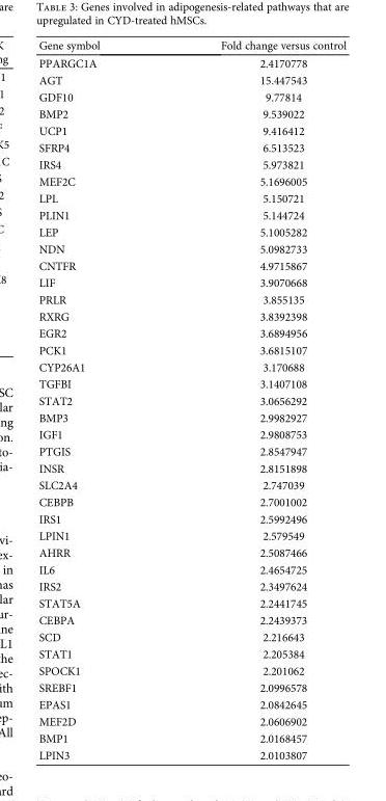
<table><thead><tr><td>Gene symbol</td><td>Fold change versus control</td></tr></thead><tbody><tr><td>PPARGC1A</td><td>2.4170778</td></tr><tr><td>AGT</td><td>15.447543</td></tr><tr><td>GDF10</td><td>9.77814</td></tr><tr><td>BMP2</td><td>9.539022</td></tr><tr><td>UCP1</td><td>9.416412</td></tr><tr><td>SFRP4</td><td>6.513523</td></tr><tr><td>IRS4</td><td>5.973821</td></tr><tr><td>MEF2C</td><td>5.1696005</td></tr><tr><td>LPL</td><td>5.150721</td></tr><tr><td>PLIN1</td><td>5.144724</td></tr><tr><td>LEP</td><td>5.1005282</td></tr><tr><td>NDN</td><td>5.0982733</td></tr><tr><td>CNTFR</td><td>4.9715867</td></tr><tr><td>LIF</td><td>3.9070668</td></tr><tr><td>PRLR</td><td>3.855135</td></tr><tr><td>RXRG</td><td>3.8392398</td></tr><tr><td>EGR2</td><td>3.6894956</td></tr><tr><td>PCK1</td><td>3.6815107</td></tr><tr><td>CYP26A1</td><td>3.170688</td></tr><tr><td>TGFBI</td><td>3.1407108</td></tr><tr><td>STAT2</td><td>3.0656292</td></tr><tr><td>BMP3</td><td>2.9982927</td></tr><tr><td>IGF1</td><td>2.9808753</td></tr><tr><td>PTGIS</td><td>2.8547947</td></tr><tr><td>INSR</td><td>2.8151898</td></tr><tr><td>SLC2A4</td><td>2.747039</td></tr><tr><td>CEBPB</td><td>2.7001002</td></tr><tr><td>IRS1</td><td>2.5992496</td></tr><tr><td>LPIN1</td><td>2.579549</td></tr><tr><td>AHRR</td><td>2.5087466</td></tr><tr><td>IL6</td><td>2.4654725</td></tr><tr><td>IRS2</td><td>2.3497624</td></tr><tr><td>STAT5A</td><td>2.2441745</td></tr><tr><td>CEBPA</td><td>2.2439373</td></tr><tr><td>SCD</td><td>2.216643</td></tr><tr><td>STAT1</td><td>2.205384</td></tr><tr><td>SPOCK1</td><td>2.201062</td></tr><tr><td>SREBF1</td><td>2.0996578</td></tr><tr><td>EPAS1</td><td>2.0842645</td></tr><tr><td>MEF2D</td><td>2.0606902</td></tr><tr><td>BMP1</td><td>2.0168457</td></tr><tr><td>LPIN3</td><td>2.0103807</td></tr></tbody></table>